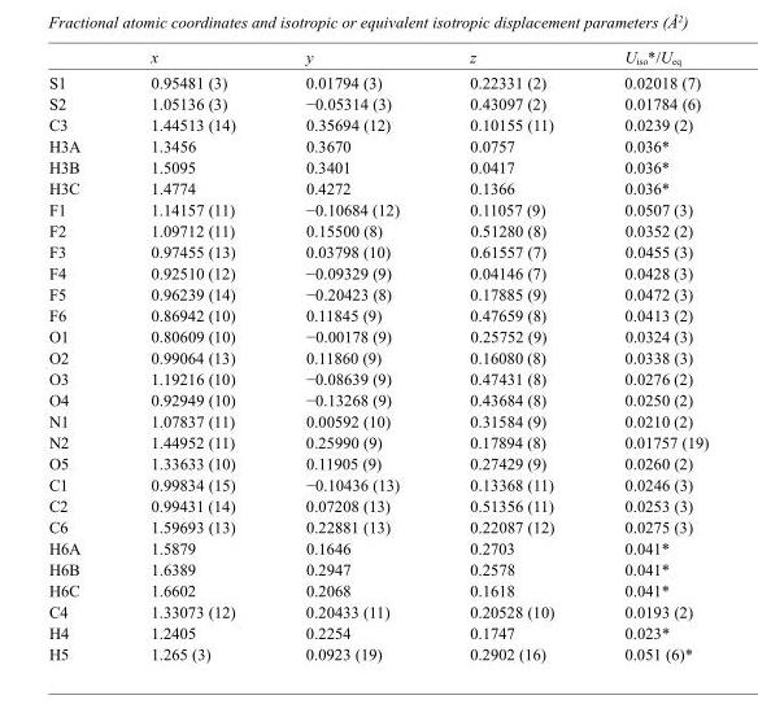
<table><thead><tr><td></td><td>x</td><td>y</td><td>z</td><td>U<sub>iso</sub>*/U<sub>eq</sub></td></tr></thead><tbody><tr><td>S1</td><td>0.95481 (3)</td><td>0.01794 (3)</td><td>0.22331 (2)</td><td>0.02018 (7)</td></tr><tr><td>S2</td><td>1.05136 (3)</td><td>−0.05314 (3)</td><td>0.43097 (2)</td><td>0.01784 (6)</td></tr><tr><td>C3</td><td>1.44513 (14)</td><td>0.35694 (12)</td><td>0.10155 (11)</td><td>0.0239 (2)</td></tr><tr><td>H3A</td><td>1.3456</td><td>0.3670</td><td>0.0757</td><td>0.036*</td></tr><tr><td>H3B</td><td>1.5095</td><td>0.3401</td><td>0.0417</td><td>0.036*</td></tr><tr><td>H3C</td><td>1.4774</td><td>0.4272</td><td>0.1366</td><td>0.036*</td></tr><tr><td>F1</td><td>1.14157 (11)</td><td>−0.10684 (12)</td><td>0.11057 (9)</td><td>0.0507 (3)</td></tr><tr><td>F2</td><td>1.09712 (11)</td><td>0.15500 (8)</td><td>0.51280 (8)</td><td>0.0352 (2)</td></tr><tr><td>F3</td><td>0.97455 (13)</td><td>0.03798 (10)</td><td>0.61557 (7)</td><td>0.0455 (3)</td></tr><tr><td>F4</td><td>0.92510 (12)</td><td>−0.09329 (9)</td><td>0.04146 (7)</td><td>0.0428 (3)</td></tr><tr><td>F5</td><td>0.96239 (14)</td><td>−0.20423 (8)</td><td>0.17885 (9)</td><td>0.0472 (3)</td></tr><tr><td>F6</td><td>0.86942 (10)</td><td>0.11845 (9)</td><td>0.47659 (8)</td><td>0.0413 (2)</td></tr><tr><td>O1</td><td>0.80609 (10)</td><td>−0.00178 (9)</td><td>0.25752 (9)</td><td>0.0324 (3)</td></tr><tr><td>O2</td><td>0.99064 (13)</td><td>0.11860 (9)</td><td>0.16080 (8)</td><td>0.0338 (3)</td></tr><tr><td>O3</td><td>1.19216 (10)</td><td>−0.08639 (9)</td><td>0.47431 (8)</td><td>0.0276 (2)</td></tr><tr><td>O4</td><td>0.92949 (10)</td><td>−0.13268 (9)</td><td>0.43684 (8)</td><td>0.0250 (2)</td></tr><tr><td>N1</td><td>1.07837 (11)</td><td>0.00592 (10)</td><td>0.31584 (9)</td><td>0.0210 (2)</td></tr><tr><td>N2</td><td>1.44952 (11)</td><td>0.25990 (9)</td><td>0.17894 (8)</td><td>0.01757 (19)</td></tr><tr><td>O5</td><td>1.33633 (10)</td><td>0.11905 (9)</td><td>0.27429 (9)</td><td>0.0260 (2)</td></tr><tr><td>C1</td><td>0.99834 (15)</td><td>−0.10436 (13)</td><td>0.13368 (11)</td><td>0.0246 (3)</td></tr><tr><td>C2</td><td>0.99431 (14)</td><td>0.07208 (13)</td><td>0.51356 (11)</td><td>0.0253 (3)</td></tr><tr><td>C6</td><td>1.59693 (13)</td><td>0.22881 (13)</td><td>0.22087 (12)</td><td>0.0275 (3)</td></tr><tr><td>H6A</td><td>1.5879</td><td>0.1646</td><td>0.2703</td><td>0.041*</td></tr><tr><td>H6B</td><td>1.6389</td><td>0.2947</td><td>0.2578</td><td>0.041*</td></tr><tr><td>H6C</td><td>1.6602</td><td>0.2068</td><td>0.1618</td><td>0.041*</td></tr><tr><td>C4</td><td>1.33073 (12)</td><td>0.20433 (11)</td><td>0.20528 (10)</td><td>0.0193 (2)</td></tr><tr><td>H4</td><td>1.2405</td><td>0.2254</td><td>0.1747</td><td>0.023*</td></tr><tr><td>H5</td><td>1.265 (3)</td><td>0.0923 (19)</td><td>0.2902 (16)</td><td>0.051 (6)*</td></tr></tbody></table>